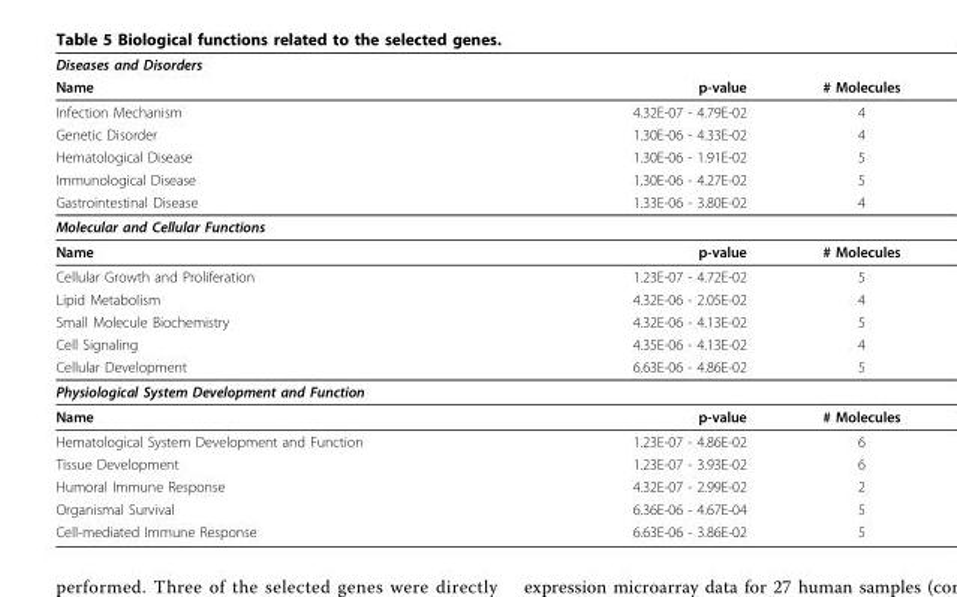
<table><thead><tr><td colspan="3">Diseases and Disorders</td></tr><tr><td>Name</td><td>p-value</td><td># Molecules</td></tr></thead><tbody><tr><td>Infection Mechanism</td><td>4.32E-07 - 4.79E-02</td><td>4</td></tr><tr><td>Genetic Disorder</td><td>1.30E-06 - 4.33E-02</td><td>4</td></tr><tr><td>Hematological Disease</td><td>1.30E-06 - 1.91E-02</td><td>5</td></tr><tr><td>Immunological Disease</td><td>1.30E-06 - 4.27E-02</td><td>5</td></tr><tr><td>Gastrointestinal Disease</td><td>1.33E-06 - 3.80E-02</td><td>4</td></tr><tr><td colspan="3">Molecular and Cellular Functions</td></tr><tr><td>Name</td><td>p-value</td><td># Molecules</td></tr><tr><td>Cellular Growth and Proliferation</td><td>1.23E-07 - 4.72E-02</td><td>5</td></tr><tr><td>Lipid Metabolism</td><td>4.32E-06 - 2.05E-02</td><td>4</td></tr><tr><td>Small Molecule Biochemistry</td><td>4.32E-06 - 4.13E-02</td><td>5</td></tr><tr><td>Cell Signaling</td><td>4.35E-06 - 4.13E-02</td><td>4</td></tr><tr><td>Cellular Development</td><td>6.63E-06 - 4.86E-02</td><td>5</td></tr><tr><td colspan="3">Physiological System Development and Function</td></tr><tr><td>Name</td><td>p-value</td><td># Molecules</td></tr><tr><td>Hematological System Development and Function</td><td>1.23E-07 - 4.86E-02</td><td>6</td></tr><tr><td>Tissue Development</td><td>1.23E-07 - 3.93E-02</td><td>6</td></tr><tr><td>Humoral Immune Response</td><td>4.32E-07 - 2.99E-02</td><td>2</td></tr><tr><td>Organismal Survival</td><td>6.36E-06 - 4.67E-04</td><td>5</td></tr><tr><td>Cell-mediated Immune Response</td><td>6.63E-06 - 3.86E-02</td><td>5</td></tr></tbody></table>